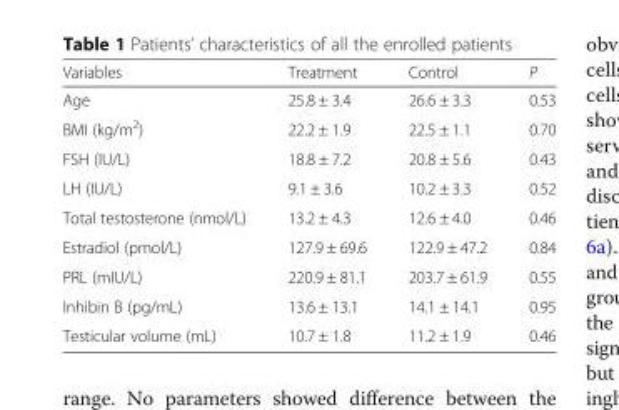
<table><thead><tr><td>Variables</td><td>Treatment</td><td>Control</td><td>P</td></tr></thead><tbody><tr><td>Age</td><td>25.8 ± 3.4</td><td>26.6 ± 3.3</td><td>0.53</td></tr><tr><td>BMI (kg/m<sup>2</sup>)</td><td>22.2 ± 1.9</td><td>22.5 ± 1.1</td><td>0.70</td></tr><tr><td>FSH (IU/L)</td><td>18.8 ± 7.2</td><td>20.8 ± 5.6</td><td>0.43</td></tr><tr><td>LH (IU/L)</td><td>9.1 ± 3.6</td><td>10.2 ± 3.3</td><td>0.52</td></tr><tr><td>Total testosterone (nmol/L)</td><td>13.2 ± 4.3</td><td>12.6 ± 4.0</td><td>0.46</td></tr><tr><td>Estradiol (pmol/L)</td><td>127.9 ± 69.6</td><td>122.9 ± 47.2</td><td>0.84</td></tr><tr><td>PRL (mIU/L)</td><td>220.9 ± 81.1</td><td>203.7 ± 61.9</td><td>0.55</td></tr><tr><td>Inhibin B (pg/mL)</td><td>13.6 ± 13.1</td><td>14.1 ± 14.1</td><td>0.95</td></tr><tr><td>Testicular volume (mL)</td><td>10.7 ± 1.8</td><td>11.2 ± 1.9</td><td>0.46</td></tr></tbody></table>